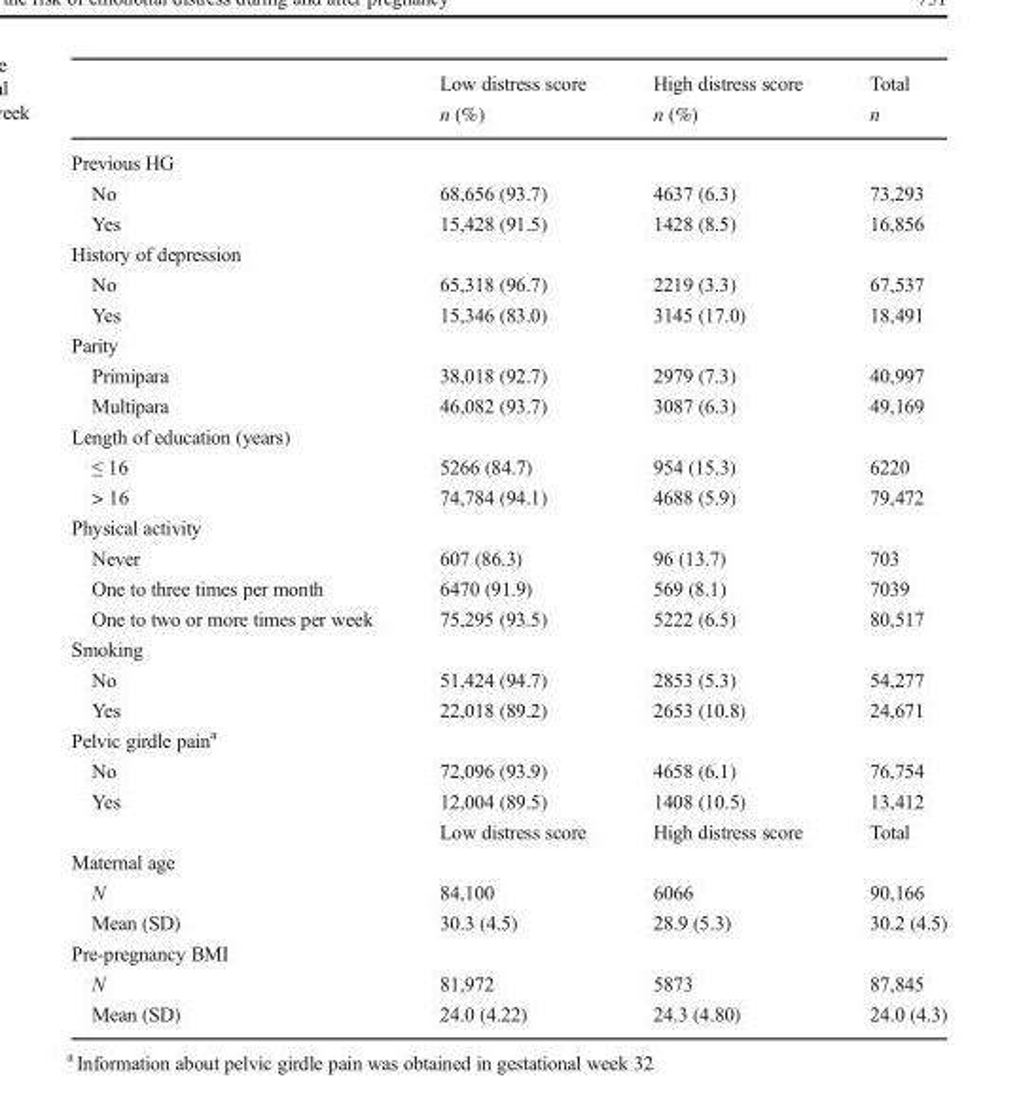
<table><thead><tr><td></td><td>Low distress score n (%)</td><td>High distress score n (%)</td><td>Total n</td></tr></thead><tbody><tr><td colspan="4">Previous HG</td></tr><tr><td>No</td><td>68,656 (93.7)</td><td>4637 (6.3)</td><td>73,293</td></tr><tr><td>Yes</td><td>15,428 (91.5)</td><td>1428 (8.5)</td><td>16,856</td></tr><tr><td colspan="4">History of depression</td></tr><tr><td>No</td><td>65,318 (96.7)</td><td>2219 (3.3)</td><td>67,537</td></tr><tr><td>Yes</td><td>15,346 (83.0)</td><td>3145 (17.0)</td><td>18,491</td></tr><tr><td colspan="4">Parity</td></tr><tr><td>Primipara</td><td>38,018 (92.7)</td><td>2979 (7.3)</td><td>40,997</td></tr><tr><td>Multipara</td><td>46,082 (93.7)</td><td>3087 (6.3)</td><td>49,169</td></tr><tr><td colspan="4">Length of education (years)</td></tr><tr><td>≤ 16</td><td>5266 (84.7)</td><td>954 (15.3)</td><td>6220</td></tr><tr><td>&gt; 16</td><td>74,784 (94.1)</td><td>4688 (5.9)</td><td>79,472</td></tr><tr><td colspan="4">Physical activity</td></tr><tr><td>Never</td><td>607 (86.3)</td><td>96 (13.7)</td><td>703</td></tr><tr><td>One to three times per month</td><td>6470 (91.9)</td><td>569 (8.1)</td><td>7039</td></tr><tr><td>One to two or more times per week</td><td>75,295 (93.5)</td><td>5222 (6.5)</td><td>80,517</td></tr><tr><td colspan="4">Smoking</td></tr><tr><td>No</td><td>51,424 (94.7)</td><td>2853 (5.3)</td><td>54,277</td></tr><tr><td>Yes</td><td>22,018 (89.2)</td><td>2653 (10.8)</td><td>24,671</td></tr><tr><td colspan="4">Pelvic girdle pain<sup>a</sup></td></tr><tr><td>No</td><td>72,096 (93.9)</td><td>4658 (6.1)</td><td>76,754</td></tr><tr><td rowspan="2">Yes</td><td>12,004 (89.5)</td><td>1408 (10.5)</td><td>13,412</td></tr><tr><td>Low distress score</td><td>High distress score</td><td>Total</td></tr><tr><td colspan="4">Maternal age</td></tr><tr><td>N</td><td>84,100</td><td>6066</td><td>90,166</td></tr><tr><td>Mean (SD)</td><td>30.3 (4.5)</td><td>28.9 (5.3)</td><td>30.2 (4.5)</td></tr><tr><td colspan="4">Pre-pregnancy BMI</td></tr><tr><td>N</td><td>81,972</td><td>5873</td><td>87,845</td></tr><tr><td>Mean (SD)</td><td>24.0 (4.22)</td><td>24.3 (4.80)</td><td>24.0 (4.3)</td></tr></tbody></table>